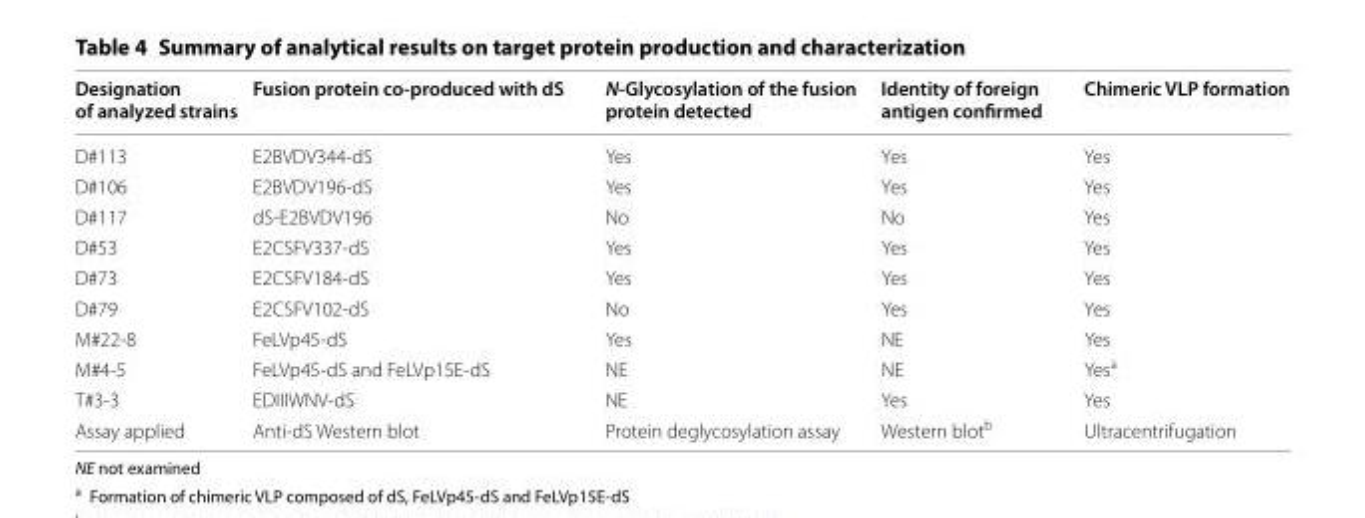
<table><thead><tr><td>Designation of analyzed strains</td><td>Fusion protein co‑produced with dS</td><td>N‑Glycosylation of the fusion protein detected</td><td>Identity of foreign antigen confirmed</td><td>Chimeric VLP formation</td></tr></thead><tbody><tr><td>D#113</td><td>E2BVDV344‑dS</td><td>Yes</td><td>Yes</td><td>Yes</td></tr><tr><td>D#106</td><td>E2BVDV196‑dS</td><td>Yes</td><td>Yes</td><td>Yes</td></tr><tr><td>D#117</td><td>dS‑E2BVDV196</td><td>No</td><td>No</td><td>Yes</td></tr><tr><td>D#53</td><td>E2CSFV337‑dS</td><td>Yes</td><td>Yes</td><td>Yes</td></tr><tr><td>D#73</td><td>E2CSFV184‑dS</td><td>Yes</td><td>Yes</td><td>Yes</td></tr><tr><td>D#79</td><td>E2CSFV102‑dS</td><td>No</td><td>Yes</td><td>Yes</td></tr><tr><td>M#22‑8</td><td>FeLVp45‑dS</td><td>Yes</td><td>NE</td><td>Yes</td></tr><tr><td>M#4‑5</td><td>FeLVp45‑dS and FeLVp15E‑dS</td><td>NE</td><td>NE</td><td>Yes<sup>a</sup></td></tr><tr><td>T#3‑3</td><td>EDIIIWNV‑dS</td><td>NE</td><td>Yes</td><td>Yes</td></tr><tr><td>Assay applied</td><td>Anti‑dS Western blot</td><td>Protein deglycosylation assay</td><td>Western blot<sup>b</sup></td><td>Ultracentrifugation</td></tr></tbody></table>